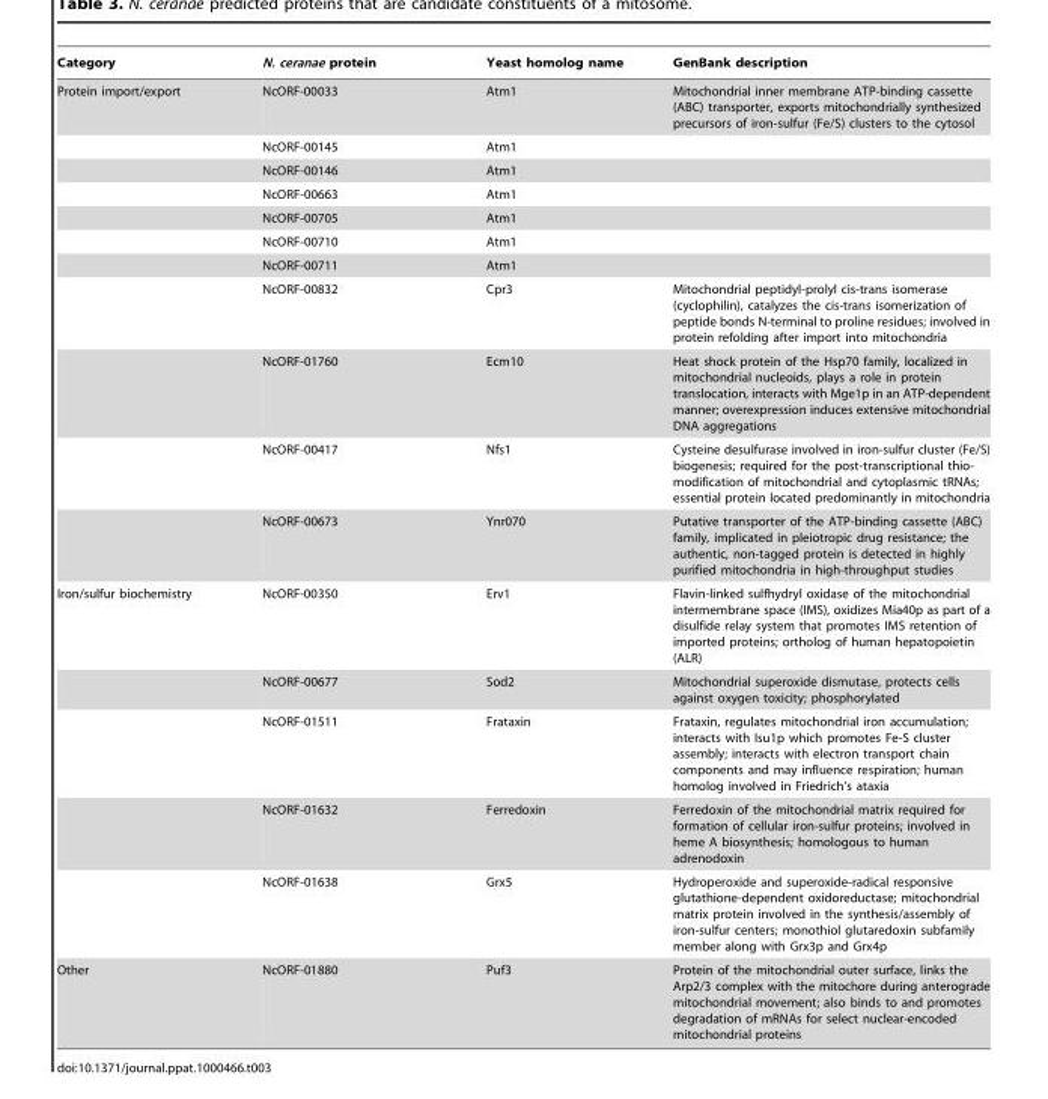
<table><thead><tr><td>Category</td><td>N. ceranae protein</td><td>Yeast homolog name</td><td>GenBank description</td></tr></thead><tbody><tr><td rowspan="11">Protein import/export</td><td>NcORF-00033</td><td>Atm1</td><td>Mitochondrial inner membrane ATP-binding cassette (ABC) transporter, exports mitochondrially synthesized precursors of iron-sulfur (Fe/S) clusters to the cytosol</td></tr><tr><td>NcORF-00145</td><td>Atm1</td><td></td></tr><tr><td>NcORF-00146</td><td>Atm1</td><td></td></tr><tr><td>NcORF-00663</td><td>Atm1</td><td></td></tr><tr><td>NcORF-00705</td><td>Atm1</td><td></td></tr><tr><td>NcORF-00710</td><td>Atm1</td><td></td></tr><tr><td>NcORF-00711</td><td>Atm1</td><td></td></tr><tr><td>NcORF-00832</td><td>Cpr3</td><td>Mitochondrial peptidyl-prolyl cis-trans isomerase (cyclophilin), catalyzes the cis-trans isomerization of peptide bonds N-terminal to proline residues; involved in protein refolding after import into mitochondria</td></tr><tr><td>NcORF-01760</td><td>Ecm10</td><td>Heat shock protein of the Hsp70 family, localized in mitochondrial nucleoids, plays a role in protein translocation, interacts with Mge1p in an ATP-dependent manner; overexpression induces extensive mitochondrial DNA aggregations</td></tr><tr><td>NcORF-00417</td><td>Nfs1</td><td>Cysteine desulfurase involved in iron-sulfur cluster (Fe/S) biogenesis; required for the post-transcriptional thio- modification of mitochondrial and cytoplasmic tRNAs; essential protein located predominantly in mitochondria</td></tr><tr><td>NcORF-00673</td><td>Ynr070</td><td>Putative transporter of the ATP-binding cassette (ABC) family, implicated in pleiotropic drug resistance; the authentic, non-tagged protein is detected in highly purified mitochondria in high-throughput studies</td></tr><tr><td rowspan="5">Iron/sulfur biochemistry</td><td>NcORF-00350</td><td>Erv1</td><td>Flavin-linked sulfhydryl oxidase of the mitochondrial intermembrane space (IMS), oxidizes Mia40p as part of a disulfide relay system that promotes IMS retention of imported proteins; ortholog of human hepatopoietin (ALR)</td></tr><tr><td>NcORF-00677</td><td>Sod2</td><td>Mitochondrial superoxide dismutase, protects cells against oxygen toxicity; phosphorylated</td></tr><tr><td>NcORF-01511</td><td>Frataxin</td><td>Frataxin, regulates mitochondrial iron accumulation; interacts with Isu1p which promotes Fe-S cluster assembly; interacts with electron transport chain components and may influence respiration; human homolog involved in Friedrich’s ataxia</td></tr><tr><td>NcORF-01632</td><td>Ferredoxin</td><td>Ferredoxin of the mitochondrial matrix required for formation of cellular iron-sulfur proteins; involved in heme A biosynthesis; homologous to human adrenodoxin</td></tr><tr><td>NcORF-01638</td><td>Grx5</td><td>Hydroperoxide and superoxide-radical responsive glutathione-dependent oxidoreductase; mitochondrial matrix protein involved in the synthesis/assembly of iron-sulfur centers; monothiol glutaredoxin subfamily member along with Grx3p and Grx4p</td></tr><tr><td>Other</td><td>NcORF-01880</td><td>Puf3</td><td>Protein of the mitochondrial outer surface, links the Arp2/3 complex with the mitochore during anterograde mitochondrial movement; also binds to and promotes degradation of mRNAs for select nuclear-encoded mitochondrial proteins</td></tr></tbody></table>